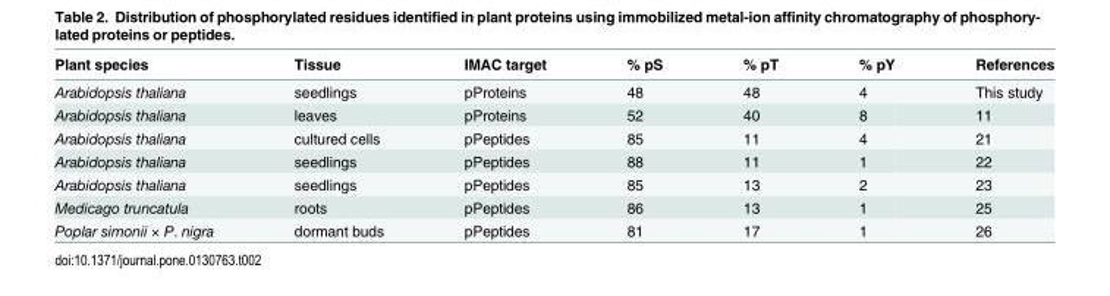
<table><thead><tr><td>Plant species</td><td>Tissue</td><td>IMAC target</td><td>% pS</td><td>% pT</td><td>% pY</td><td>References</td></tr></thead><tbody><tr><td>Arabidopsis thaliana</td><td>seedlings</td><td>pProteins</td><td>48</td><td>48</td><td>4</td><td>This study</td></tr><tr><td>Arabidopsis thaliana</td><td>leaves</td><td>pProteins</td><td>52</td><td>40</td><td>8</td><td>11</td></tr><tr><td>Arabidopsis thaliana</td><td>cultured cells</td><td>pPeptides</td><td>85</td><td>11</td><td>4</td><td>21</td></tr><tr><td>Arabidopsis thaliana</td><td>seedlings</td><td>pPeptides</td><td>88</td><td>11</td><td>1</td><td>22</td></tr><tr><td>Arabidopsis thaliana</td><td>seedlings</td><td>pPeptides</td><td>85</td><td>13</td><td>2</td><td>23</td></tr><tr><td>Medicago truncatula</td><td>roots</td><td>pPeptides</td><td>86</td><td>13</td><td>1</td><td>25</td></tr><tr><td>Poplar simonii × P. nigra</td><td>dormant buds</td><td>pPeptides</td><td>81</td><td>17</td><td>1</td><td>26</td></tr></tbody></table>